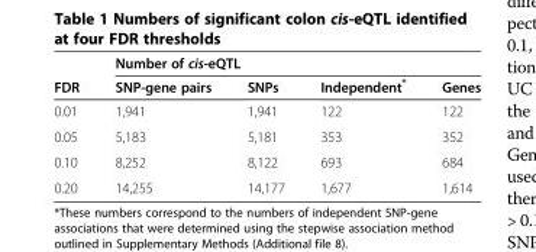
<table><thead><tr><td rowspan="2">FDR</td><td colspan="4">Number of cis-eQTL</td></tr><tr><td>SNP-gene pairs</td><td>SNPs</td><td>Independent*</td><td>Genes</td></tr></thead><tbody><tr><td>0.01</td><td>1,941</td><td>1,941</td><td>122</td><td>122</td></tr><tr><td>0.05</td><td>5,183</td><td>5,181</td><td>353</td><td>352</td></tr><tr><td>0.10</td><td>8,252</td><td>8,122</td><td>693</td><td>684</td></tr><tr><td>0.20</td><td>14,255</td><td>14,177</td><td>1,677</td><td>1,614</td></tr></tbody></table>